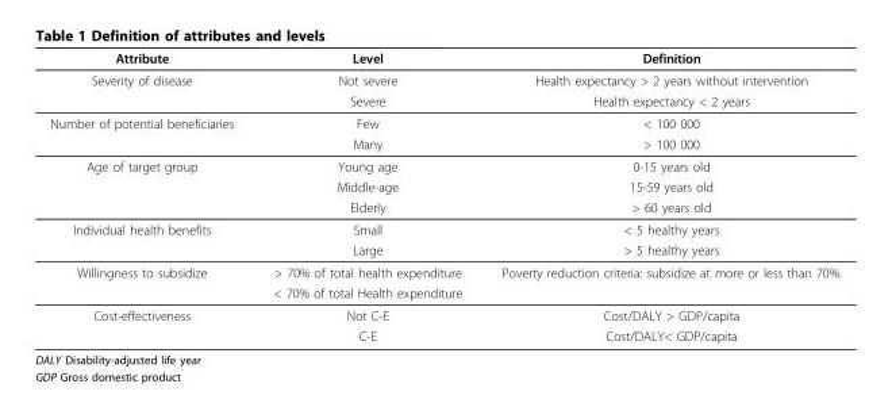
<table><thead><tr><td>Attribute</td><td>Level</td><td>Definition</td></tr></thead><tbody><tr><td rowspan="2">Severity of disease</td><td>Not severe</td><td>Health expectancy &gt; 2 years without intervention</td></tr><tr><td>Severe</td><td>Health expectancy &lt; 2 years</td></tr><tr><td rowspan="2">Number of potential beneficiaries</td><td>Few</td><td>&lt; 100 000</td></tr><tr><td>Many</td><td>&gt; 100 000</td></tr><tr><td rowspan="3">Age of target group</td><td>Young age</td><td>0-15 years old</td></tr><tr><td>Middle-age</td><td>15-59 years old</td></tr><tr><td>Elderly</td><td>&gt; 60 years old</td></tr><tr><td rowspan="2">Individual health benefits</td><td>Small</td><td>&lt; 5 healthy years</td></tr><tr><td>Large</td><td>&gt; 5 healthy years</td></tr><tr><td rowspan="2">Willingness to subsidize</td><td>&gt; 70% of total health expenditure</td><td>Poverty reduction criteria: subsidize at more or less than 70%.</td></tr><tr><td>&lt; 70% of total Health expenditure</td><td></td></tr><tr><td rowspan="2">Cost-effectiveness</td><td>Not C-E</td><td>Cost/DALY &gt; GDP/capita</td></tr><tr><td>C-E</td><td>Cost/DALY&lt; GDP/capita</td></tr></tbody></table>